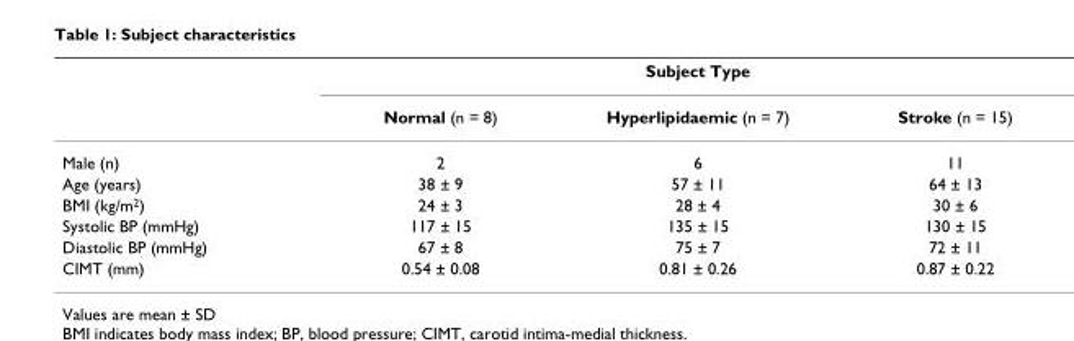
<table><thead><tr><td rowspan="2"></td><td colspan="3">Subject Type</td></tr><tr><td>Normal (n = 8)</td><td>Hyperlipidaemic (n = 7)</td><td>Stroke (n = 15)</td></tr></thead><tbody><tr><td>Male (n)</td><td>2</td><td>6</td><td>11</td></tr><tr><td>Age (years)</td><td>38 ± 9</td><td>57 ± 11</td><td>64 ± 13</td></tr><tr><td>BMI (kg/m<sup>2</sup>)</td><td>24 ± 3</td><td>28 ± 4</td><td>30 ± 6</td></tr><tr><td>Systolic BP (mmHg)</td><td>117 ± 15</td><td>135 ± 15</td><td>130 ± 15</td></tr><tr><td>Diastolic BP (mmHg)</td><td>67 ± 8</td><td>75 ± 7</td><td>72 ± 11</td></tr><tr><td>CIMT (mm)</td><td>0.54 ± 0.08</td><td>0.81 ± 0.26</td><td>0.87 ± 0.22</td></tr></tbody></table>